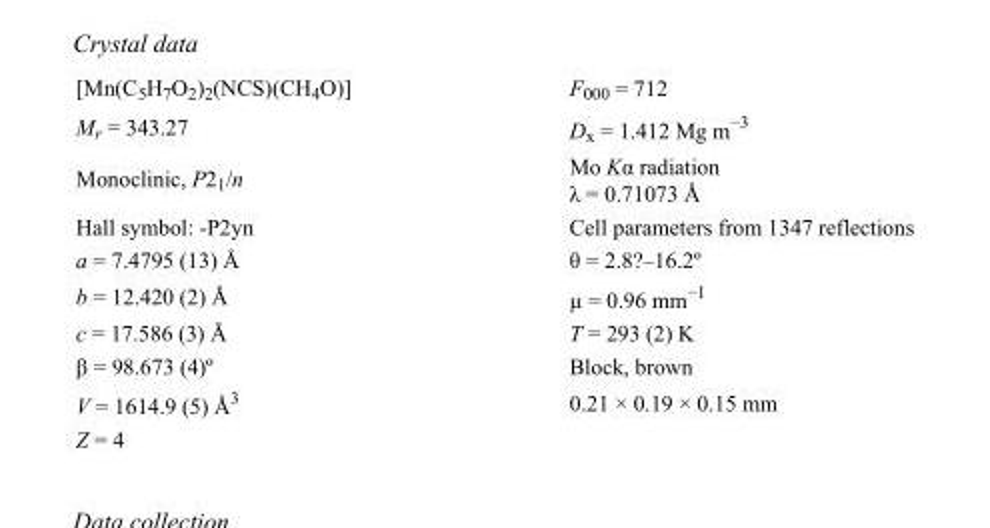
<table><tbody><tr><td>[Mn(C<sub>5</sub>H<sub>7</sub>O<sub>2</sub>)<sub>2</sub>(NCS)(CH<sub>4</sub>O)]</td><td>F000 = 712</td></tr><tr><td>M<sub>r</sub> = 343.27</td><td>D<sub>x</sub> = 1.412 Mg m<sup>−3</sup></td></tr><tr><td>Monoclinic, P2<sub>1</sub>/n</td><td>Mo Kα radiation λ = 0.71073 Å</td></tr><tr><td>Hall symbol: -P2yn</td><td>Cell parameters from 1347 reflections</td></tr><tr><td>a = 7.4795 (13) Å</td><td>θ = 2.8?–16.2º</td></tr><tr><td>b = 12.420 (2) Å</td><td>µ = 0.96 mm<sup>−1</sup></td></tr><tr><td>c = 17.586 (3) Å</td><td>T = 293 (2) K</td></tr><tr><td>β = 98.673 (4)º</td><td>Block, brown</td></tr><tr><td>V = 1614.9 (5) Å<sup>3</sup></td><td>0.21 × 0.19 × 0.15 mm</td></tr><tr><td>Z = 4</td><td></td></tr></tbody></table>